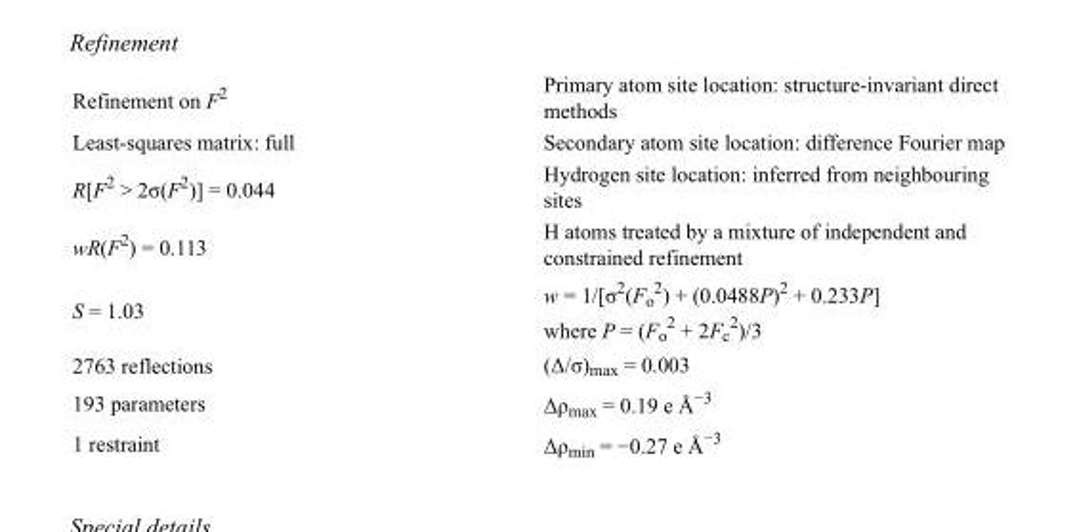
<table><tbody><tr><td>Refinement on F<sup>2</sup></td><td>Primary atom site location: structure-invariant direct methods</td></tr><tr><td>Least-squares matrix: full</td><td>Secondary atom site location: difference Fourier map</td></tr><tr><td>R[F<sup>2</sup> &gt; 2σ(F<sup>2</sup>)] = 0.044</td><td>Hydrogen site location: inferred from neighbouring sites</td></tr><tr><td>wR(F<sup>2</sup>) = 0.113</td><td>H atoms treated by a mixture of independent and constrained refinement</td></tr><tr><td>S = 1.03</td><td>w = 1/[σ<sup>2</sup>(F<sub>o</sub> <sup>2</sup>) + (0.0488P)<sup>2</sup> + 0.233P] where P = (F<sub>o</sub> <sup>2</sup> + 2F<sub>c</sub> <sup>2</sup>)/3</td></tr><tr><td>2763 reflections</td><td>(Δ/σ)<sub>max</sub> = 0.003</td></tr><tr><td>193 parameters</td><td>Δρ<sub>max</sub> = 0.19 e Å<sup>−3</sup></td></tr><tr><td>1 restraint</td><td>Δρ<sub>min</sub> = −0.27 e Å<sup>−3</sup></td></tr></tbody></table>